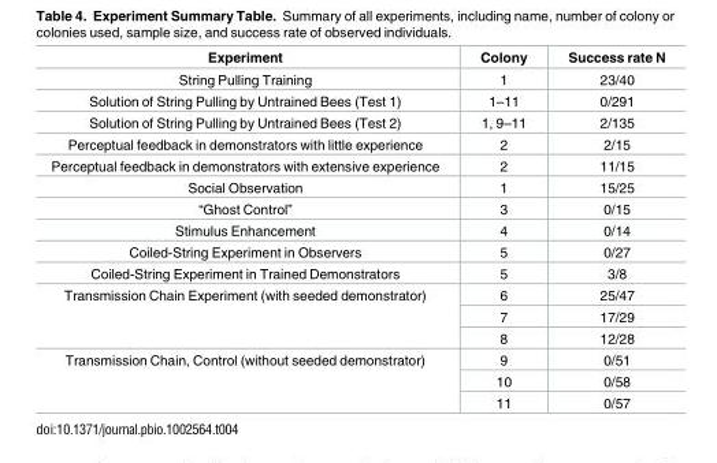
<table><thead><tr><td>Experiment</td><td>Colony</td><td>Success rate N</td></tr></thead><tbody><tr><td>String Pulling Training</td><td>1</td><td>23/40</td></tr><tr><td>Solution of String Pulling by Untrained Bees (Test 1)</td><td>1–11</td><td>0/291</td></tr><tr><td>Solution of String Pulling by Untrained Bees (Test 2)</td><td>1, 9–11</td><td>2/135</td></tr><tr><td>Perceptual feedback in demonstrators with little experience</td><td>2</td><td>2/15</td></tr><tr><td>Perceptual feedback in demonstrators with extensive experience</td><td>2</td><td>11/15</td></tr><tr><td>Social Observation</td><td>1</td><td>15/25</td></tr><tr><td>“Ghost Control”</td><td>3</td><td>0/15</td></tr><tr><td>Stimulus Enhancement</td><td>4</td><td>0/14</td></tr><tr><td>Coiled-String Experiment in Observers</td><td>5</td><td>0/27</td></tr><tr><td>Coiled-String Experiment in Trained Demonstrators</td><td>5</td><td>3/8</td></tr><tr><td rowspan="3">Transmission Chain Experiment (with seeded demonstrator)</td><td>6</td><td>25/47</td></tr><tr><td>7</td><td>17/29</td></tr><tr><td>8</td><td>12/28</td></tr><tr><td rowspan="3">Transmission Chain, Control (without seeded demonstrator)</td><td>9</td><td>0/51</td></tr><tr><td>10</td><td>0/58</td></tr><tr><td>11</td><td>0/57</td></tr></tbody></table>